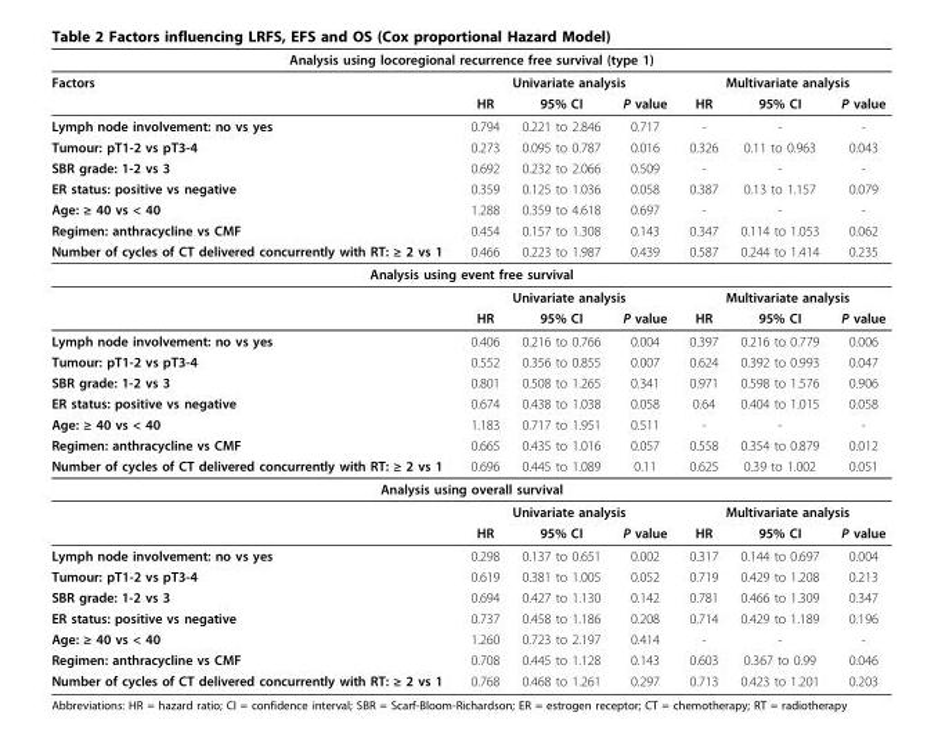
<table><thead><tr><td colspan="7">Analysis using locoregional recurrence free survival (type 1)</td></tr><tr><td rowspan="2">Factors</td><td colspan="3">Univariate analysis</td><td colspan="3">Multivariate analysis</td></tr><tr><td>HR</td><td>95% CI</td><td>P value</td><td>HR</td><td>95% CI</td><td>P value</td></tr></thead><tbody><tr><td>Lymph node involvement: no vs yes</td><td>0.794</td><td>0.221 to 2.846</td><td>0.717</td><td>-</td><td>-</td><td>-</td></tr><tr><td>Tumour: pT1-2 vs pT3-4</td><td>0.273</td><td>0.095 to 0.787</td><td>0.016</td><td>0.326</td><td>0.11 to 0.963</td><td>0.043</td></tr><tr><td>SBR grade: 1-2 vs 3</td><td>0.692</td><td>0.232 to 2.066</td><td>0.509</td><td>-</td><td>-</td><td>-</td></tr><tr><td>ER status: positive vs negative</td><td>0.359</td><td>0.125 to 1.036</td><td>0.058</td><td>0.387</td><td>0.13 to 1.157</td><td>0.079</td></tr><tr><td>Age: ≥ 40 vs &lt; 40</td><td>1.288</td><td>0.359 to 4.618</td><td>0.697</td><td>-</td><td>-</td><td>-</td></tr><tr><td>Regimen: anthracycline vs CMF</td><td>0.454</td><td>0.157 to 1.308</td><td>0.143</td><td>0.347</td><td>0.114 to 1.053</td><td>0.062</td></tr><tr><td>Number of cycles of CT delivered concurrently with RT: ≥ 2 vs 1</td><td>0.466</td><td>0.223 to 1.987</td><td>0.439</td><td>0.587</td><td>0.244 to 1.414</td><td>0.235</td></tr><tr><td colspan="7">Analysis using event free survival</td></tr><tr><td></td><td colspan="3">Univariate analysis</td><td colspan="3">Multivariate analysis</td></tr><tr><td></td><td>HR</td><td>95% CI</td><td>P value</td><td>HR</td><td>95% CI</td><td>P value</td></tr><tr><td>Lymph node involvement: no vs yes</td><td>0.406</td><td>0.216 to 0.766</td><td>0.004</td><td>0.397</td><td>0.216 to 0.779</td><td>0.006</td></tr><tr><td>Tumour: pT1-2 vs pT3-4</td><td>0.552</td><td>0.356 to 0.855</td><td>0.007</td><td>0.624</td><td>0.392 to 0.993</td><td>0.047</td></tr><tr><td>SBR grade: 1-2 vs 3</td><td>0.801</td><td>0.508 to 1.265</td><td>0.341</td><td>0.971</td><td>0.598 to 1.576</td><td>0.906</td></tr><tr><td>ER status: positive vs negative</td><td>0.674</td><td>0.438 to 1.038</td><td>0.058</td><td>0.64</td><td>0.404 to 1.015</td><td>0.058</td></tr><tr><td>Age: ≥ 40 vs &lt; 40</td><td>1.183</td><td>0.717 to 1.951</td><td>0.511</td><td>-</td><td>-</td><td>-</td></tr><tr><td>Regimen: anthracycline vs CMF</td><td>0.665</td><td>0.435 to 1.016</td><td>0.057</td><td>0.558</td><td>0.354 to 0.879</td><td>0.012</td></tr><tr><td>Number of cycles of CT delivered concurrently with RT: ≥ 2 vs 1</td><td>0.696</td><td>0.445 to 1.089</td><td>0.11</td><td>0.625</td><td>0.39 to 1.002</td><td>0.051</td></tr><tr><td colspan="7">Analysis using overall survival</td></tr><tr><td></td><td colspan="3">Univariate analysis</td><td colspan="3">Multivariate analysis</td></tr><tr><td></td><td>HR</td><td>95% CI</td><td>P value</td><td>HR</td><td>95% CI</td><td>P value</td></tr><tr><td>Lymph node involvement: no vs yes</td><td>0.298</td><td>0.137 to 0.651</td><td>0.002</td><td>0.317</td><td>0.144 to 0.697</td><td>0.004</td></tr><tr><td>Tumour: pT1-2 vs pT3-4</td><td>0.619</td><td>0.381 to 1.005</td><td>0.052</td><td>0.719</td><td>0.429 to 1.208</td><td>0.213</td></tr><tr><td>SBR grade: 1-2 vs 3</td><td>0.694</td><td>0.427 to 1.130</td><td>0.142</td><td>0.781</td><td>0.466 to 1.309</td><td>0.347</td></tr><tr><td>ER status: positive vs negative</td><td>0.737</td><td>0.458 to 1.186</td><td>0.208</td><td>0.714</td><td>0.429 to 1.189</td><td>0.196</td></tr><tr><td>Age: ≥ 40 vs &lt; 40</td><td>1.260</td><td>0.723 to 2.197</td><td>0.414</td><td>-</td><td>-</td><td>-</td></tr><tr><td>Regimen: anthracycline vs CMF</td><td>0.708</td><td>0.445 to 1.128</td><td>0.143</td><td>0.603</td><td>0.367 to 0.99</td><td>0.046</td></tr><tr><td>Number of cycles of CT delivered concurrently with RT: ≥ 2 vs 1</td><td>0.768</td><td>0.468 to 1.261</td><td>0.297</td><td>0.713</td><td>0.423 to 1.201</td><td>0.203</td></tr></tbody></table>